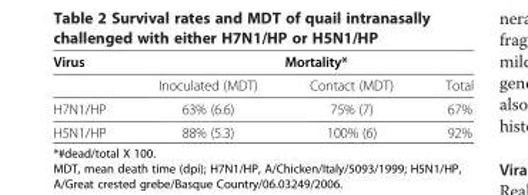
<table><thead><tr><td rowspan="2">Virus</td><td colspan="3">Mortality*</td></tr><tr><td>Inoculated (MDT)</td><td>Contact (MDT)</td><td>Total</td></tr></thead><tbody><tr><td>H7N1/HP</td><td>63% (6.6)</td><td>75% (7)</td><td>67%</td></tr><tr><td>H5N1/HP</td><td>88% (5.3)</td><td>100% (6)</td><td>92%</td></tr></tbody></table>